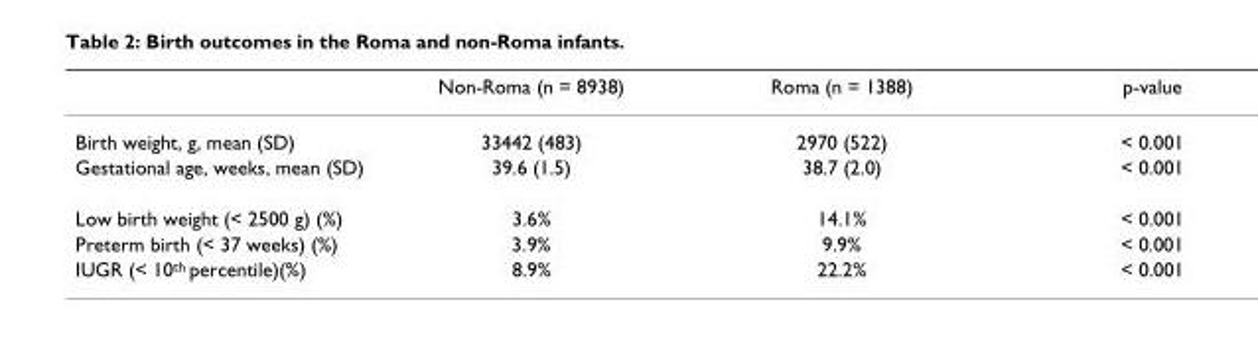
<table><thead><tr><td></td><td>Non-Roma (n = 8938)</td><td>Roma (n = 1388)</td><td>p-value</td></tr></thead><tbody><tr><td>Birth weight, g, mean (SD)</td><td>33442 (483)</td><td>2970 (522)</td><td>&lt; 0.001</td></tr><tr><td>Gestational age, weeks, mean (SD)</td><td>39.6 (1.5)</td><td>38.7 (2.0)</td><td>&lt; 0.001</td></tr><tr><td>Low birth weight (&lt; 2500 g) (%)</td><td>3.6%</td><td>14.1%</td><td>&lt; 0.001</td></tr><tr><td>Preterm birth (&lt; 37 weeks) (%)</td><td>3.9%</td><td>9.9%</td><td>&lt; 0.001</td></tr><tr><td>IUGR (&lt; 10<sup>th</sup> percentile)(%)</td><td>8.9%</td><td>22.2%</td><td>&lt; 0.001</td></tr></tbody></table>